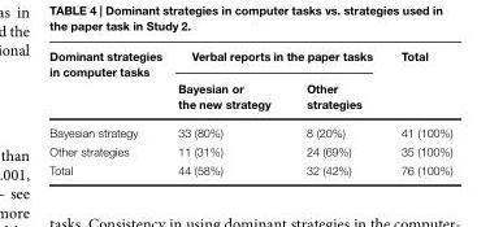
<table><thead><tr><td rowspan="2">Dominant strategies in computer tasks</td><td colspan="2">Verbal reports in the paper tasks</td><td rowspan="2">Total</td></tr><tr><td>Bayesian or the new strategy</td><td>Other strategies</td></tr></thead><tbody><tr><td>Bayesian strategy</td><td>33 (80%)</td><td>8 (20%)</td><td>41 (100%)</td></tr><tr><td>Other strategies</td><td>11 (31%)</td><td>24 (69%)</td><td>35 (100%)</td></tr><tr><td>Total</td><td>44 (58%)</td><td>32 (42%)</td><td>76 (100%)</td></tr></tbody></table>